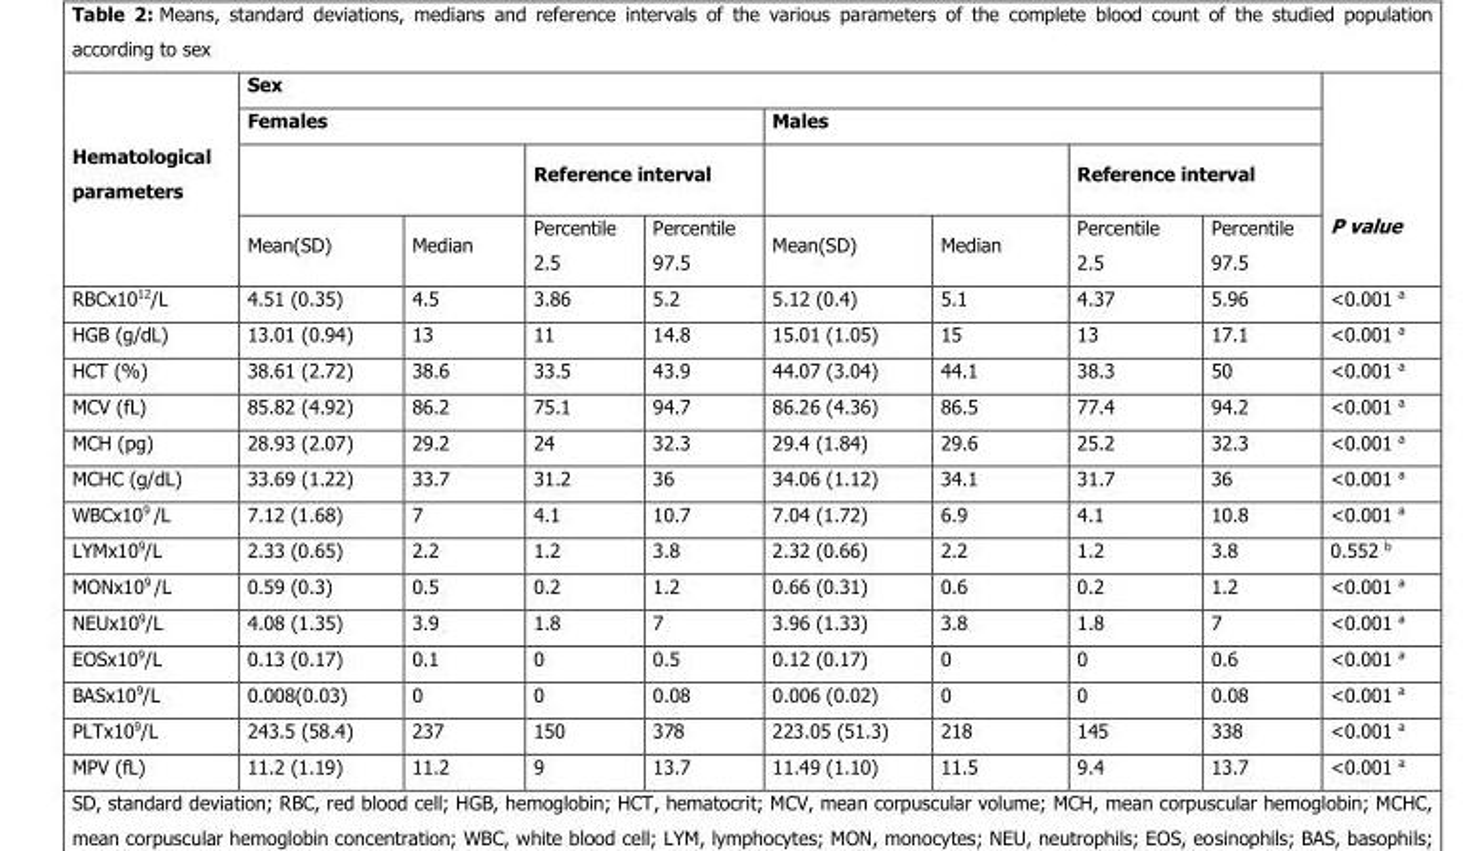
<table><thead><tr><td rowspan="4">Hematological parameters</td><td colspan="8">Sex</td><td rowspan="4">P value</td></tr><tr><td colspan="4">Females</td><td colspan="4">Males</td></tr><tr><td rowspan="2">Mean(SD)</td><td rowspan="2">Median</td><td colspan="2">Reference interval</td><td rowspan="2">Mean(SD)</td><td rowspan="2">Median</td><td colspan="2">Reference interval</td></tr><tr><td>Percentile 2.5</td><td>Percentile 97.5</td><td>Percentile 2.5</td><td>Percentile 97.5</td></tr></thead><tbody><tr><td>RBCx10<sup>12</sup>/L</td><td>4.51 (0.35)</td><td>4.5</td><td>3.86</td><td>5.2</td><td>5.12 (0.4)</td><td>5.1</td><td>4.37</td><td>5.96</td><td>&lt;0.001 <sup>a</sup></td></tr><tr><td>HGB (g/dL)</td><td>13.01 (0.94)</td><td>13</td><td>11</td><td>14.8</td><td>15.01 (1.05)</td><td>15</td><td>13</td><td>17.1</td><td>&lt;0.001 <sup>a</sup></td></tr><tr><td>HCT (%)</td><td>38.61 (2.72)</td><td>38.6</td><td>33.5</td><td>43.9</td><td>44.07 (3.04)</td><td>44.1</td><td>38.3</td><td>50</td><td>&lt;0.001 <sup>a</sup></td></tr><tr><td>MCV (fL)</td><td>85.82 (4.92)</td><td>86.2</td><td>75.1</td><td>94.7</td><td>86.26 (4.36)</td><td>86.5</td><td>77.4</td><td>94.2</td><td>&lt;0.001 <sup>a</sup></td></tr><tr><td>MCH (pg)</td><td>28.93 (2.07)</td><td>29.2</td><td>24</td><td>32.3</td><td>29.4 (1.84)</td><td>29.6</td><td>25.2</td><td>32.3</td><td>&lt;0.001 <sup>a</sup></td></tr><tr><td>MCHC (g/dL)</td><td>33.69 (1.22)</td><td>33.7</td><td>31.2</td><td>36</td><td>34.06 (1.12)</td><td>34.1</td><td>31.7</td><td>36</td><td>&lt;0.001 <sup>a</sup></td></tr><tr><td>WBCx10<sup>9</sup> /L</td><td>7.12 (1.68)</td><td>7</td><td>4.1</td><td>10.7</td><td>7.04 (1.72)</td><td>6.9</td><td>4.1</td><td>10.8</td><td>&lt;0.001 <sup>a</sup></td></tr><tr><td>LYMx10<sup>9</sup>/L</td><td>2.33 (0.65)</td><td>2.2</td><td>1.2</td><td>3.8</td><td>2.32 (0.66)</td><td>2.2</td><td>1.2</td><td>3.8</td><td>0.552 <sup>b</sup></td></tr><tr><td>MONx10<sup>9</sup> /L</td><td>0.59 (0.3)</td><td>0.5</td><td>0.2</td><td>1.2</td><td>0.66 (0.31)</td><td>0.6</td><td>0.2</td><td>1.2</td><td>&lt;0.001 <sup>a</sup></td></tr><tr><td>NEUx10<sup>9</sup>/L</td><td>4.08 (1.35)</td><td>3.9</td><td>1.8</td><td>7</td><td>3.96 (1.33)</td><td>3.8</td><td>1.8</td><td>7</td><td>&lt;0.001 <sup>a</sup></td></tr><tr><td>EOSx10<sup>9</sup>/L</td><td>0.13 (0.17)</td><td>0.1</td><td>0</td><td>0.5</td><td>0.12 (0.17)</td><td>0</td><td>0</td><td>0.6</td><td>&lt;0.001 <sup>a</sup></td></tr><tr><td>BASx10<sup>9</sup>/L</td><td>0.008(0.03)</td><td>0</td><td>0</td><td>0.08</td><td>0.006 (0.02)</td><td>0</td><td>0</td><td>0.08</td><td>&lt;0.001 <sup>a</sup></td></tr><tr><td>PLTx10<sup>9</sup>/L</td><td>243.5 (58.4)</td><td>237</td><td>150</td><td>378</td><td>223.05 (51.3)</td><td>218</td><td>145</td><td>338</td><td>&lt;0.001 <sup>a</sup></td></tr><tr><td>MPV (fL)</td><td>11.2 (1.19)</td><td>11.2</td><td>9</td><td>13.7</td><td>11.49 (1.10)</td><td>11.5</td><td>9.4</td><td>13.7</td><td>&lt;0.001 <sup>a</sup></td></tr></tbody></table>